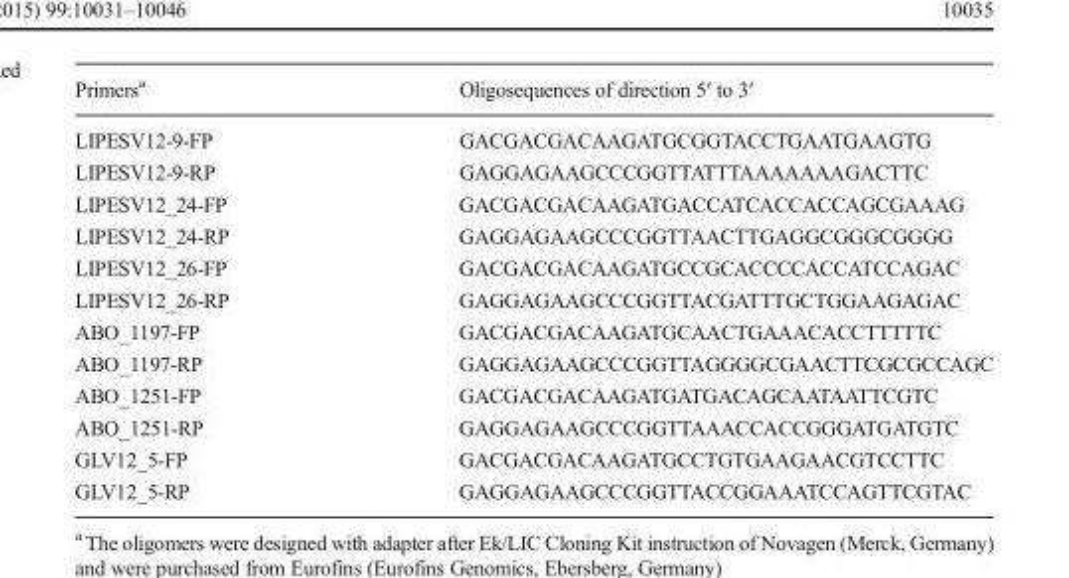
<table><thead><tr><td>Primers<sup>a</sup></td><td>Oligosequences of direction 5′ to 3′</td></tr></thead><tbody><tr><td>LIPESV12-9-FP</td><td>GACGACGACAAGATGCGGTACCTGAATGAAGTG</td></tr><tr><td>LIPESV12-9-RP</td><td>GAGGAGAAGCCCGGTTATTTAAAAAAAGACTTC</td></tr><tr><td>LIPESV12_24-FP</td><td>GACGACGACAAGATGACCATCACCACCAGCGAAAG</td></tr><tr><td>LIPESV12_24-RP</td><td>GAGGAGAAGCCCGGTTAACTTGAGGCGGGCGGGG</td></tr><tr><td>LIPESV12_26-FP</td><td>GACGACGACAAGATGCCGCACCCCACCATCCAGAC</td></tr><tr><td>LIPESV12_26-RP</td><td>GAGGAGAAGCCCGGTTACGATTTGCTGGAAGAGAC</td></tr><tr><td>ABO_1197-FP</td><td>GACGACGACAAGATGCAACTGAAACACCTTTTTC</td></tr><tr><td>ABO_1197-RP</td><td>GAGGAGAAGCCCGGTTAGGGGCGAACTTCGCGCCAGC</td></tr><tr><td>ABO_1251-FP</td><td>GACGACGACAAGATGATGACAGCAATAATTCGTC</td></tr><tr><td>ABO_1251-RP</td><td>GAGGAGAAGCCCGGTTAAACCACCGGGATGATGTC</td></tr><tr><td>GLV12_5-FP</td><td>GACGACGACAAGATGCCTGTGAAGAACGTCCTTC</td></tr><tr><td>GLV12_5-RP</td><td>GAGGAGAAGCCCGGTTACCGGAAATCCAGTTCGTAC</td></tr></tbody></table>